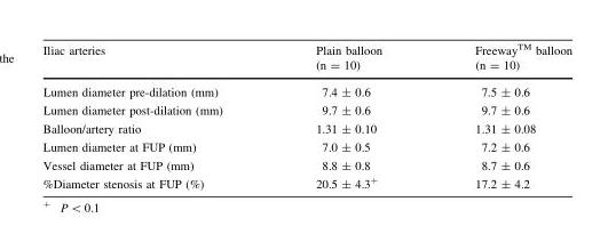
<table><thead><tr><td>Iliac arteries</td><td>Plain balloon (n = 10)</td><td>FreewayTM balloon (n = 10)</td></tr></thead><tbody><tr><td>Lumen diameter pre-dilation (mm)</td><td>7.4 ± 0.6</td><td>7.5 ± 0.6</td></tr><tr><td>Lumen diameter post-dilation (mm)</td><td>9.7 ± 0.6</td><td>9.7 ± 0.6</td></tr><tr><td>Balloon/artery ratio</td><td>1.31 ± 0.10</td><td>1.31 ± 0.08</td></tr><tr><td>Lumen diameter at FUP (mm)</td><td>7.0 ± 0.5</td><td>7.2 ± 0.6</td></tr><tr><td>Vessel diameter at FUP (mm)</td><td>8.8 ± 0.8</td><td>8.7 ± 0.6</td></tr><tr><td>%Diameter stenosis at FUP (%)</td><td>20.5 ± 4.3<sup>+</sup></td><td>17.2 ± 4.2</td></tr></tbody></table>